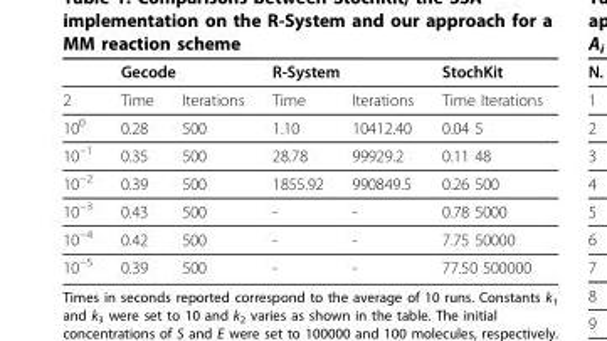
<table><thead><tr><td rowspan="2">2</td><td colspan="2">Gecode</td><td colspan="2">R-System</td><td rowspan="2">StochKit Time Iterations</td></tr><tr><td>Time</td><td>Iterations</td><td>Time</td><td>Iterations</td></tr></thead><tbody><tr><td>10<sup>0</sup></td><td>0.28</td><td>500</td><td>1.10</td><td>10412.40</td><td>0.04 5</td></tr><tr><td>10<sup>−1</sup></td><td>0.35</td><td>500</td><td>28.78</td><td>99929.2</td><td>0.11 48</td></tr><tr><td>10<sup>−2</sup></td><td>0.39</td><td>500</td><td>1855.92</td><td>990849.5</td><td>0.26 500</td></tr><tr><td>10<sup>−3</sup></td><td>0.43</td><td>500</td><td>-</td><td>-</td><td>0.78 5000</td></tr><tr><td>10<sup>−4</sup></td><td>0.42</td><td>500</td><td>-</td><td>-</td><td>7.75 50000</td></tr><tr><td>10<sup>−5</sup></td><td>0.39</td><td>500</td><td>-</td><td>-</td><td>77.50 500000</td></tr></tbody></table>